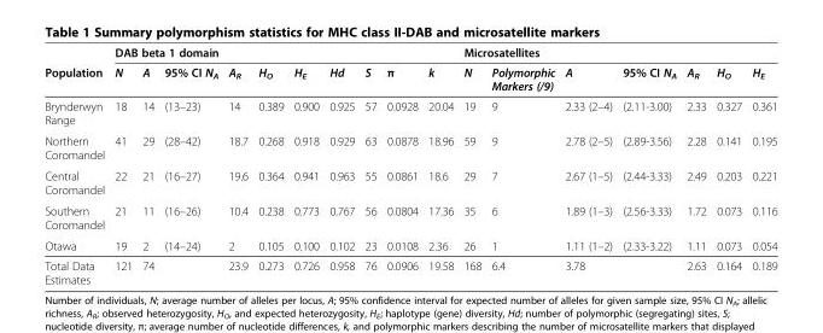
<table><thead><tr><td rowspan="2">Population</td><td colspan="10">DAB beta 1 domain</td><td colspan="7">Microsatellites</td></tr><tr><td>N</td><td>A</td><td>95% CI N<sub>A</sub></td><td>A<sub>R</sub></td><td>H<sub>O</sub></td><td>H<sub>E</sub></td><td>Hd</td><td>S</td><td>π</td><td>k</td><td>N</td><td>Polymorphic Markers (/9)</td><td>A</td><td>95% CI N<sub>A</sub></td><td>A<sub>R</sub></td><td>H<sub>O</sub></td><td>H<sub>E</sub></td></tr></thead><tbody><tr><td>Brynderwyn Range</td><td>18</td><td>14</td><td>(13–23)</td><td>14</td><td>0.389</td><td>0.900</td><td>0.925</td><td>57</td><td>0.0928</td><td>20.04</td><td>19</td><td>9</td><td>2.33 (2–4)</td><td>(2.11-3.00)</td><td>2.33</td><td>0.327</td><td>0.361</td></tr><tr><td>Northern Coromandel</td><td>41</td><td>29</td><td>(28–42)</td><td>18.7</td><td>0.268</td><td>0.918</td><td>0.929</td><td>63</td><td>0.0878</td><td>18.96</td><td>59</td><td>9</td><td>2.78 (2–5)</td><td>(2.89-3.56)</td><td>2.28</td><td>0.141</td><td>0.195</td></tr><tr><td>Central Coromandel</td><td>22</td><td>21</td><td>(16–27)</td><td>19.6</td><td>0.364</td><td>0.941</td><td>0.963</td><td>55</td><td>0.0861</td><td>18.6</td><td>29</td><td>7</td><td>2.67 (1–5)</td><td>(2.44-3.33)</td><td>2.49</td><td>0.203</td><td>0.221</td></tr><tr><td>Southern Coromandel</td><td>21</td><td>11</td><td>(16–26)</td><td>10.4</td><td>0.238</td><td>0.773</td><td>0.767</td><td>56</td><td>0.0804</td><td>17.36</td><td>35</td><td>6</td><td>1.89 (1–3)</td><td>(2.56-3.33)</td><td>1.72</td><td>0.073</td><td>0.116</td></tr><tr><td>Otawa</td><td>19</td><td>2</td><td>(14–24)</td><td>2</td><td>0.105</td><td>0.100</td><td>0.102</td><td>23</td><td>0.0108</td><td>2.36</td><td>26</td><td>1</td><td>1.11 (1–2)</td><td>(2.33-3.22)</td><td>1.11</td><td>0.073</td><td>0.054</td></tr><tr><td>Total Data Estimates</td><td>121</td><td>74</td><td></td><td>23.9</td><td>0.273</td><td>0.726</td><td>0.958</td><td>76</td><td>0.0906</td><td>19.58</td><td>168</td><td>6.4</td><td>3.78</td><td></td><td>2.63</td><td>0.164</td><td>0.189</td></tr></tbody></table>